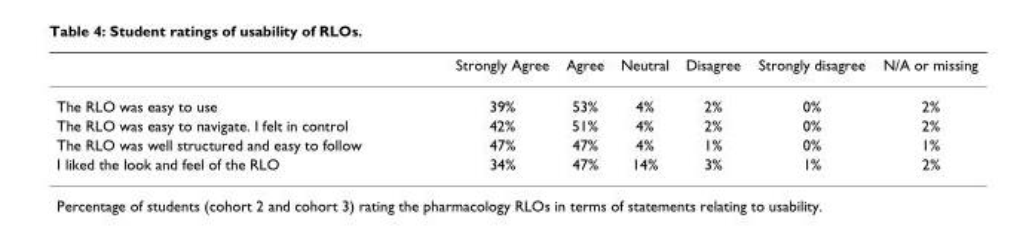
<table><thead><tr><td></td><td>Strongly Agree</td><td>Agree</td><td>Neutral</td><td>Disagree</td><td>Strongly disagree</td><td>N/A or missing</td></tr></thead><tbody><tr><td>The RLO was easy to use</td><td>39%</td><td>53%</td><td>4%</td><td>2%</td><td>0%</td><td>2%</td></tr><tr><td>The RLO was easy to navigate. I felt in control</td><td>42%</td><td>51%</td><td>4%</td><td>2%</td><td>0%</td><td>2%</td></tr><tr><td>The RLO was well structured and easy to follow</td><td>47%</td><td>47%</td><td>4%</td><td>1%</td><td>0%</td><td>1%</td></tr><tr><td>I liked the look and feel of the RLO</td><td>34%</td><td>47%</td><td>14%</td><td>3%</td><td>1%</td><td>2%</td></tr></tbody></table>